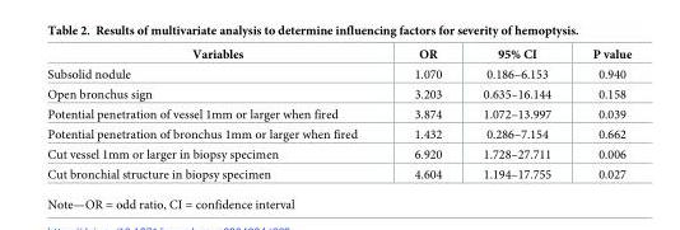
<table><thead><tr><td>Variables</td><td>OR</td><td>95% CI</td><td>P value</td></tr></thead><tbody><tr><td>Subsolid nodule</td><td>1.070</td><td>0.186–6.153</td><td>0.940</td></tr><tr><td>Open bronchus sign</td><td>3.203</td><td>0.635–16.144</td><td>0.158</td></tr><tr><td>Potential penetration of vessel 1mm or larger when fired</td><td>3.874</td><td>1.072–13.997</td><td>0.039</td></tr><tr><td>Potential penetration of bronchus 1mm or larger when fired</td><td>1.432</td><td>0.286–7.154</td><td>0.662</td></tr><tr><td>Cut vessel 1mm or larger in biopsy specimen</td><td>6.920</td><td>1.728–27.711</td><td>0.006</td></tr><tr><td>Cut bronchial structure in biopsy specimen</td><td>4.604</td><td>1.194–17.755</td><td>0.027</td></tr></tbody></table>